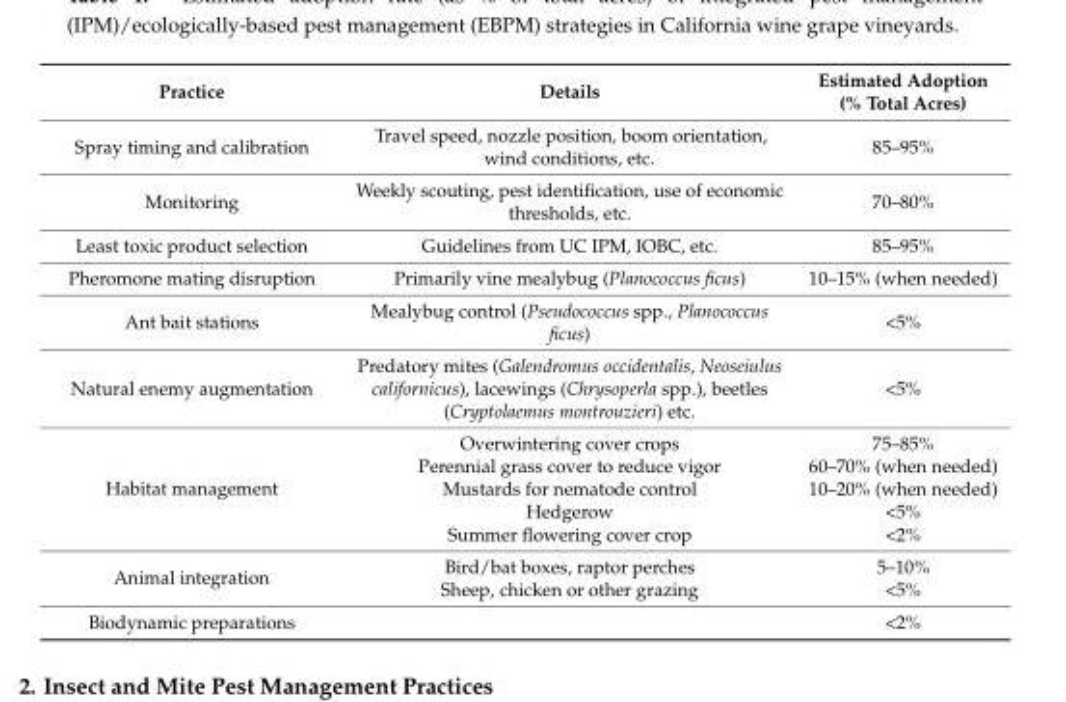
<table><thead><tr><td>Practice</td><td>Details</td><td>Estimated Adoption (% Total Acres)</td></tr></thead><tbody><tr><td>Spray timing and calibration</td><td>Travel speed, nozzle position, boom orientation, wind conditions, etc.</td><td>85–95%</td></tr><tr><td>Monitoring</td><td>Weekly scouting, pest identification, use of economic thresholds, etc.</td><td>70–80%</td></tr><tr><td>Least toxic product selection</td><td>Guidelines from UC IPM, IOBC, etc.</td><td>85–95%</td></tr><tr><td>Pheromone mating disruption</td><td>Primarily vine mealybug (Planococcus ficus)</td><td>10–15% (when needed)</td></tr><tr><td>Ant bait stations</td><td>Mealybug control (Pseudococcus spp., Planococcus ficus)</td><td>&lt;5%</td></tr><tr><td>Natural enemy augmentation</td><td>Predatory mites (Galendromus occidentalis, Neoseiulus californicus), lacewings (Chrysoperla spp.), beetles (Cryptolaemus montrouzieri) etc.</td><td>&lt;5%</td></tr><tr><td rowspan="5">Habitat management</td><td>Overwintering cover crops</td><td>75–85%</td></tr><tr><td>Perennial grass cover to reduce vigor</td><td>60–70% (when needed)</td></tr><tr><td>Mustards for nematode control</td><td>10–20% (when needed)</td></tr><tr><td>Hedgerow</td><td>&lt;5%</td></tr><tr><td>Summer flowering cover crop</td><td>&lt;2%</td></tr><tr><td rowspan="2">Animal integration</td><td>Bird/bat boxes, raptor perches</td><td>5–10%</td></tr><tr><td>Sheep, chicken or other grazing</td><td>&lt;5%</td></tr><tr><td>Biodynamic preparations</td><td></td><td>&lt;2%</td></tr></tbody></table>